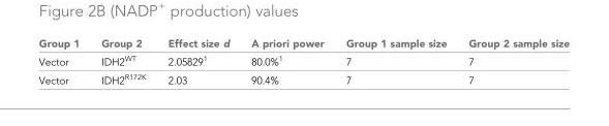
<table><thead><tr><td>Group 1</td><td>Group 2</td><td>Effect size d</td><td>A priori power</td><td>Group 1 sample size</td><td>Group 2 sample size</td></tr></thead><tbody><tr><td>Vector</td><td>IDH2<sup>WT</sup></td><td>2.05829<sup>1</sup></td><td>80.0%<sup>1</sup></td><td>7</td><td>7</td></tr><tr><td>Vector</td><td>IDH2<sup>R172K</sup></td><td>2.03</td><td>90.4%</td><td>7</td><td>7</td></tr></tbody></table>